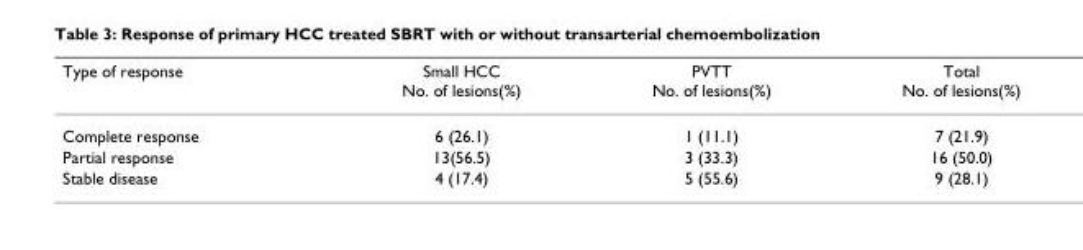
<table><thead><tr><td>Type of response</td><td>Small HCC No. of lesions(%)</td><td>PVTT No. of lesions(%)</td><td>Total No. of lesions(%)</td></tr></thead><tbody><tr><td>Complete response</td><td>6 (26.1)</td><td>1 (11.1)</td><td>7 (21.9)</td></tr><tr><td>Partial response</td><td>13(56.5)</td><td>3 (33.3)</td><td>16 (50.0)</td></tr><tr><td>Stable disease</td><td>4 (17.4)</td><td>5 (55.6)</td><td>9 (28.1)</td></tr></tbody></table>